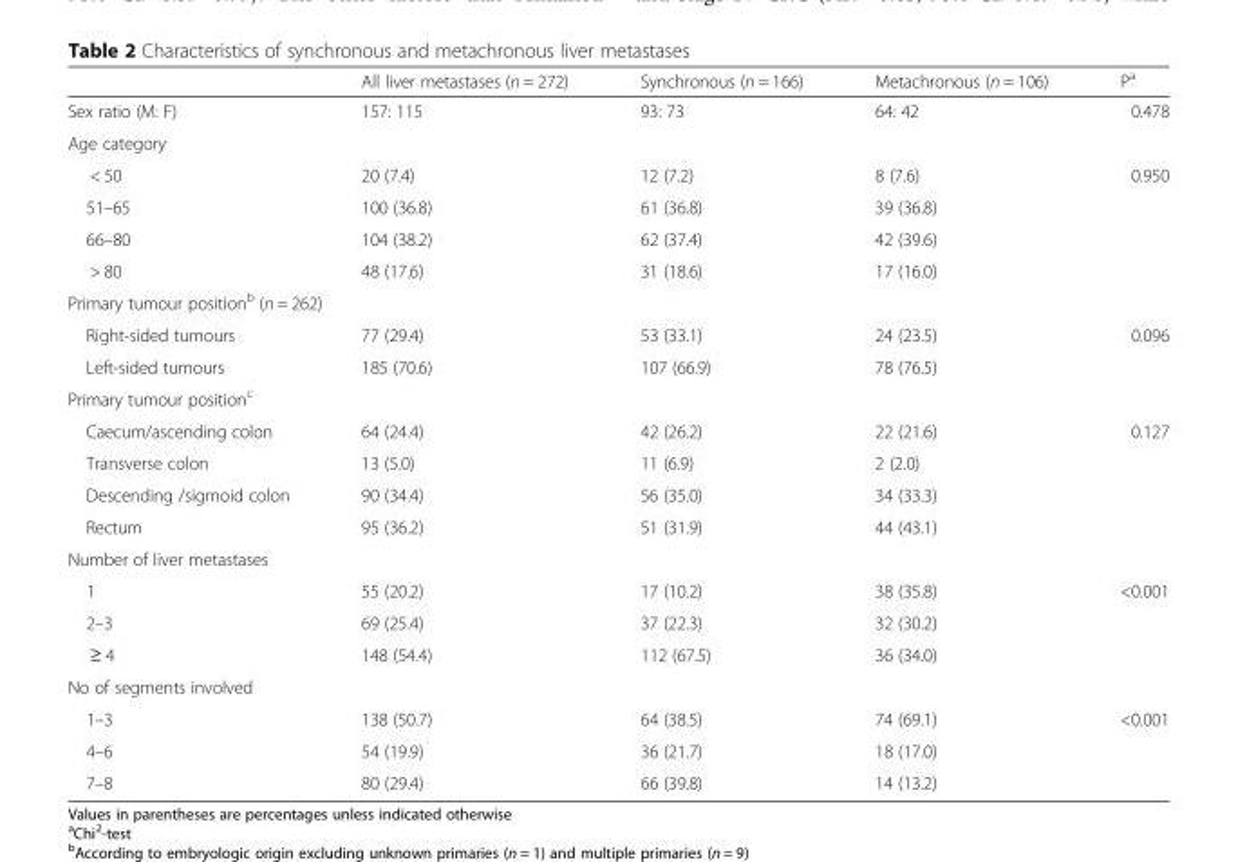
<table><thead><tr><td></td><td>All liver metastases (n = 272)</td><td>Synchronous (n = 166)</td><td>Metachronous (n = 106)</td><td>P<sup>a</sup></td></tr></thead><tbody><tr><td>Sex ratio (M: F)</td><td>157: 115</td><td>93: 73</td><td>64: 42</td><td>0.478</td></tr><tr><td colspan="5">Age category</td></tr><tr><td>&lt; 50</td><td>20 (7.4)</td><td>12 (7.2)</td><td>8 (7.6)</td><td rowspan="4">0.950</td></tr><tr><td>51–65</td><td>100 (36.8)</td><td>61 (36.8)</td><td>39 (36.8)</td></tr><tr><td>66–80</td><td>104 (38.2)</td><td>62 (37.4)</td><td>42 (39.6)</td></tr><tr><td>&gt; 80</td><td>48 (17.6)</td><td>31 (18.6)</td><td>17 (16.0)</td></tr><tr><td colspan="5">Primary tumour position<sup>b</sup> (n = 262)</td></tr><tr><td>Right-sided tumours</td><td>77 (29.4)</td><td>53 (33.1)</td><td>24 (23.5)</td><td rowspan="2">0.096</td></tr><tr><td>Left-sided tumours</td><td>185 (70.6)</td><td>107 (66.9)</td><td>78 (76.5)</td></tr><tr><td colspan="5">Primary tumour position<sup>c</sup></td></tr><tr><td>Caecum/ascending colon</td><td>64 (24.4)</td><td>42 (26.2)</td><td>22 (21.6)</td><td rowspan="4">0.127</td></tr><tr><td>Transverse colon</td><td>13 (5.0)</td><td>11 (6.9)</td><td>2 (2.0)</td></tr><tr><td>Descending /sigmoid colon</td><td>90 (34.4)</td><td>56 (35.0)</td><td>34 (33.3)</td></tr><tr><td>Rectum</td><td>95 (36.2)</td><td>51 (31.9)</td><td>44 (43.1)</td></tr><tr><td colspan="5">Number of liver metastases</td></tr><tr><td>1</td><td>55 (20.2)</td><td>17 (10.2)</td><td>38 (35.8)</td><td rowspan="3">&lt;0.001</td></tr><tr><td>2–3</td><td>69 (25.4)</td><td>37 (22.3)</td><td>32 (30.2)</td></tr><tr><td>≥ 4</td><td>148 (54.4)</td><td>112 (67.5)</td><td>36 (34.0)</td></tr><tr><td colspan="5">No of segments involved</td></tr><tr><td>1–3</td><td>138 (50.7)</td><td>64 (38.5)</td><td>74 (69.1)</td><td rowspan="3">&lt;0.001</td></tr><tr><td>4–6</td><td>54 (19.9)</td><td>36 (21.7)</td><td>18 (17.0)</td></tr><tr><td>7–8</td><td>80 (29.4)</td><td>66 (39.8)</td><td>14 (13.2)</td></tr></tbody></table>